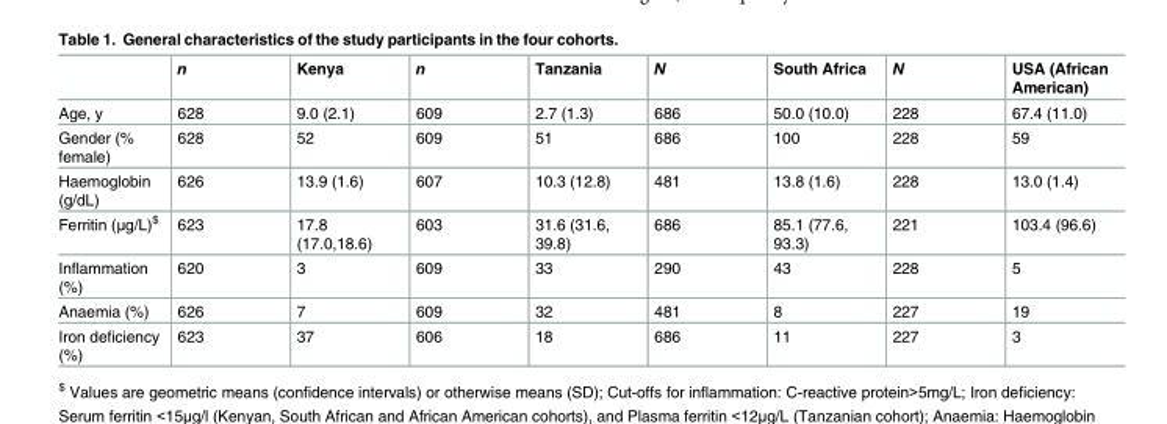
<table><thead><tr><td></td><td>n</td><td>Kenya</td><td>n</td><td>Tanzania</td><td>N</td><td>South Africa</td><td>N</td><td>USA (African American)</td></tr></thead><tbody><tr><td>Age, y</td><td>628</td><td>9.0 (2.1)</td><td>609</td><td>2.7 (1.3)</td><td>686</td><td>50.0 (10.0)</td><td>228</td><td>67.4 (11.0)</td></tr><tr><td>Gender (% female)</td><td>628</td><td>52</td><td>609</td><td>51</td><td>686</td><td>100</td><td>228</td><td>59</td></tr><tr><td>Haemoglobin (g/dL)</td><td>626</td><td>13.9 (1.6)</td><td>607</td><td>10.3 (12.8)</td><td>481</td><td>13.8 (1.6)</td><td>228</td><td>13.0 (1.4)</td></tr><tr><td>Ferritin (μg/L)<sup>$</sup></td><td>623</td><td>17.8 (17.0,18.6)</td><td>603</td><td>31.6 (31.6, 39.8)</td><td>686</td><td>85.1 (77.6, 93.3)</td><td>221</td><td>103.4 (96.6)</td></tr><tr><td>Inflammation (%)</td><td>620</td><td>3</td><td>609</td><td>33</td><td>290</td><td>43</td><td>228</td><td>5</td></tr><tr><td>Anaemia (%)</td><td>626</td><td>7</td><td>609</td><td>32</td><td>481</td><td>8</td><td>227</td><td>19</td></tr><tr><td>Iron deficiency (%)</td><td>623</td><td>37</td><td>606</td><td>18</td><td>686</td><td>11</td><td>227</td><td>3</td></tr></tbody></table>